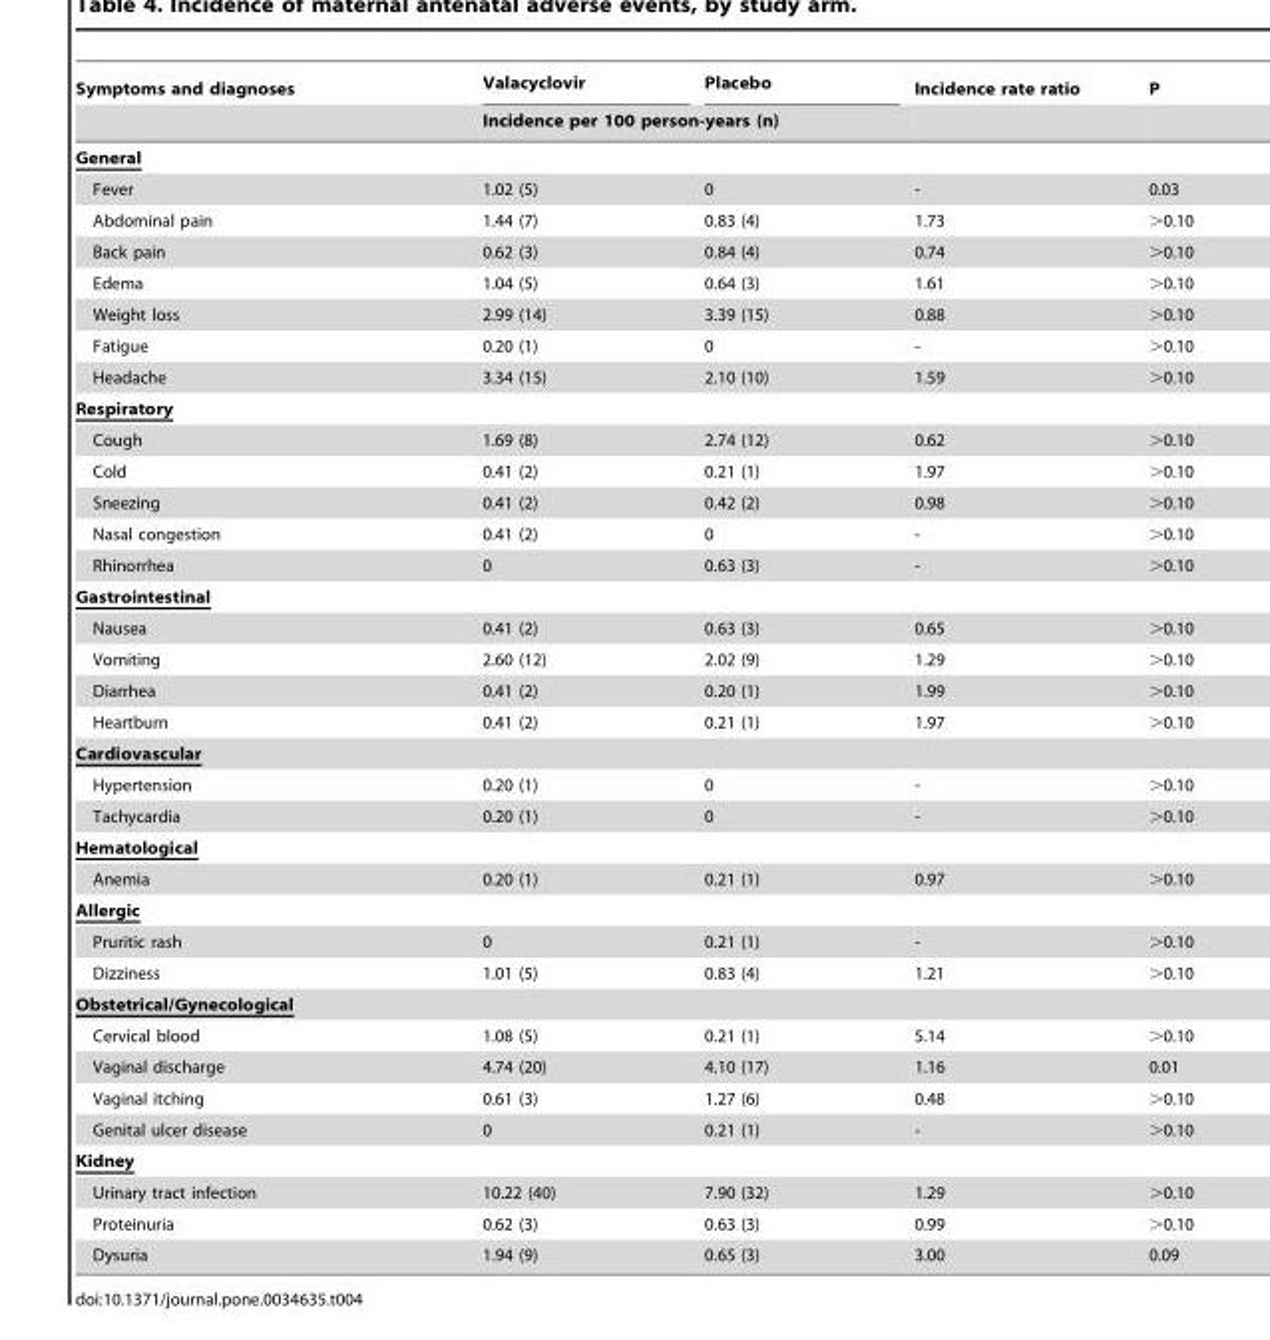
<table><thead><tr><td rowspan="2">Symptoms and diagnoses</td><td>Valacyclovir</td><td>Placebo</td><td rowspan="2">Incidence rate ratio</td><td rowspan="2">P</td></tr><tr><td colspan="2">Incidence per 100 person-years (n)</td></tr></thead><tbody><tr><td colspan="5">General</td></tr><tr><td>Fever</td><td>1.02 (5)</td><td>0</td><td>-</td><td>0.03</td></tr><tr><td>Abdominal pain</td><td>1.44 (7)</td><td>0.83 (4)</td><td>1.73</td><td>&gt;0.10</td></tr><tr><td>Back pain</td><td>0.62 (3)</td><td>0.84 (4)</td><td>0.74</td><td>&gt;0.10</td></tr><tr><td>Edema</td><td>1.04 (5)</td><td>0.64 (3)</td><td>1.61</td><td>&gt;0.10</td></tr><tr><td>Weight loss</td><td>2.99 (14)</td><td>3.39 (15)</td><td>0.88</td><td>&gt;0.10</td></tr><tr><td>Fatigue</td><td>0.20 (1)</td><td>0</td><td>-</td><td>&gt;0.10</td></tr><tr><td>Headache</td><td>3.34 (15)</td><td>2.10 (10)</td><td>1.59</td><td>&gt;0.10</td></tr><tr><td colspan="5">Respiratory</td></tr><tr><td>Cough</td><td>1.69 (8)</td><td>2.74 (12)</td><td>0.62</td><td>&gt;0.10</td></tr><tr><td>Cold</td><td>0.41 (2)</td><td>0.21 (1)</td><td>1.97</td><td>&gt;0.10</td></tr><tr><td>Sneezing</td><td>0.41 (2)</td><td>0.42 (2)</td><td>0.98</td><td>&gt;0.10</td></tr><tr><td>Nasal congestion</td><td>0.41 (2)</td><td>0</td><td>-</td><td>&gt;0.10</td></tr><tr><td>Rhinorrhea</td><td>0</td><td>0.63 (3)</td><td>-</td><td>&gt;0.10</td></tr><tr><td colspan="5">Gastrointestinal</td></tr><tr><td>Nausea</td><td>0.41 (2)</td><td>0.63 (3)</td><td>0.65</td><td>&gt;0.10</td></tr><tr><td>Vomiting</td><td>2.60 (12)</td><td>2.02 (9)</td><td>1.29</td><td>&gt;0.10</td></tr><tr><td>Diarrhea</td><td>0.41 (2)</td><td>0.20 (1)</td><td>1.99</td><td>&gt;0.10</td></tr><tr><td>Heartburn</td><td>0.41 (2)</td><td>0.21 (1)</td><td>1.97</td><td>&gt;0.10</td></tr><tr><td colspan="5">Cardiovascular</td></tr><tr><td>Hypertension</td><td>0.20 (1)</td><td>0</td><td>-</td><td>&gt;0.10</td></tr><tr><td>Tachycardia</td><td>0.20 (1)</td><td>0</td><td>-</td><td>&gt;0.10</td></tr><tr><td colspan="5">Hematological</td></tr><tr><td>Anemia</td><td>0.20 (1)</td><td>0.21 (1)</td><td>0.97</td><td>&gt;0.10</td></tr><tr><td colspan="5">Allergic</td></tr><tr><td>Pruritic rash</td><td>0</td><td>0.21 (1)</td><td>-</td><td>&gt;0.10</td></tr><tr><td>Dizziness</td><td>1.01 (5)</td><td>0.83 (4)</td><td>1.21</td><td>&gt;0.10</td></tr><tr><td colspan="5">Obstetrical/Gynecological</td></tr><tr><td>Cervical blood</td><td>1.08 (5)</td><td>0.21 (1)</td><td>5.14</td><td>&gt;0.10</td></tr><tr><td>Vaginal discharge</td><td>4.74 (20)</td><td>4.10 (17)</td><td>1.16</td><td>0.01</td></tr><tr><td>Vaginal itching</td><td>0.61 (3)</td><td>1.27 (6)</td><td>0.48</td><td>&gt;0.10</td></tr><tr><td>Genital ulcer disease</td><td>0</td><td>0.21 (1)</td><td>-</td><td>&gt;0.10</td></tr><tr><td colspan="5">Kidney</td></tr><tr><td>Urinary tract infection</td><td>10.22 (40)</td><td>7.90 (32)</td><td>1.29</td><td>&gt;0.10</td></tr><tr><td>Proteinuria</td><td>0.62 (3)</td><td>0.63 (3)</td><td>0.99</td><td>&gt;0.10</td></tr><tr><td>Dysuria</td><td>1.94 (9)</td><td>0.65 (3)</td><td>3.00</td><td>0.09</td></tr></tbody></table>